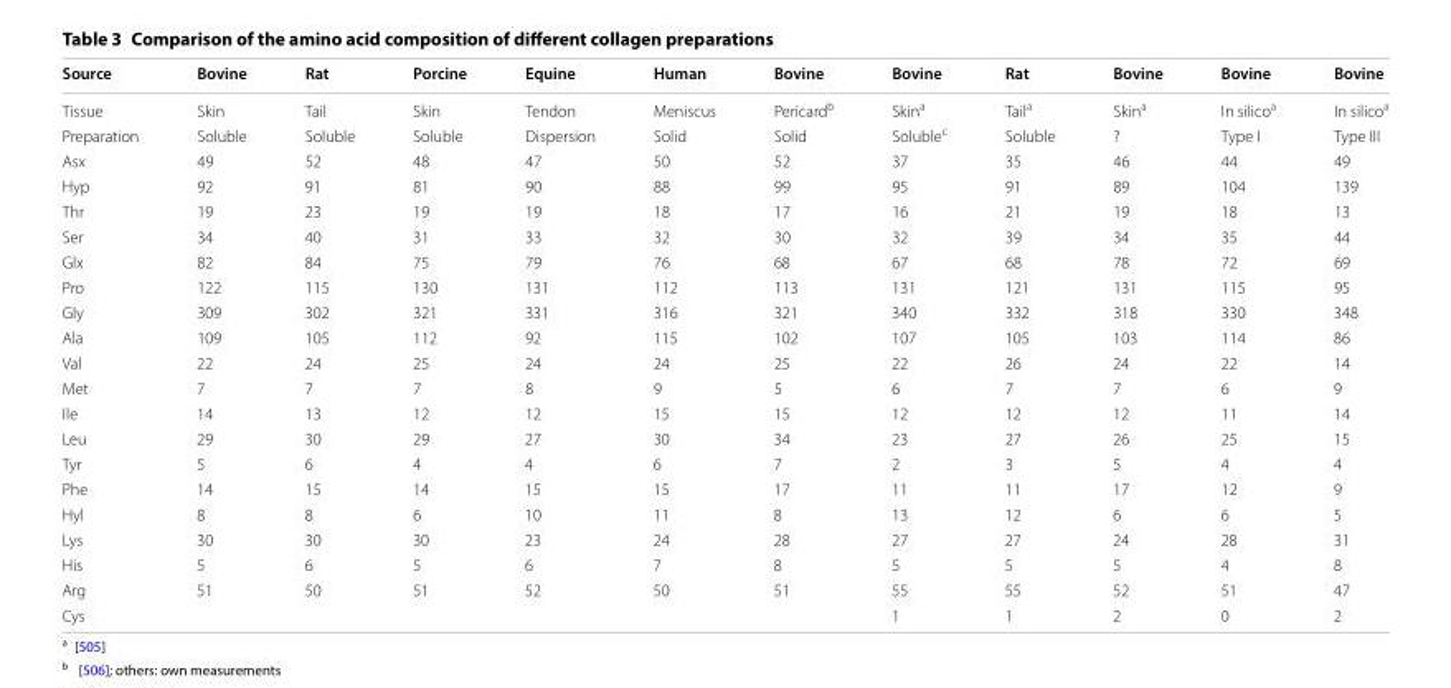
<table><thead><tr><td>Source</td><td>Bovine</td><td>Rat</td><td>Porcine</td><td>Equine</td><td>Human</td><td>Bovine</td><td>Bovine</td><td>Rat</td><td>Bovine</td><td>Bovine</td><td>Bovine</td></tr></thead><tbody><tr><td>Tissue</td><td>Skin</td><td>Tail</td><td>Skin</td><td>Tendon</td><td>Meniscus</td><td>Pericard<sup>b</sup></td><td>Skin<sup>a</sup></td><td>Tail<sup>a</sup></td><td>Skin<sup>a</sup></td><td>In silico<sup>a</sup></td><td>In silico<sup>a</sup></td></tr><tr><td>Preparation</td><td>Soluble</td><td>Soluble</td><td>Soluble</td><td>Dispersion</td><td>Solid</td><td>Solid</td><td>Soluble<sup>c</sup></td><td>Soluble</td><td>?</td><td>Type I</td><td>Type III</td></tr><tr><td>Asx</td><td>49</td><td>52</td><td>48</td><td>47</td><td>50</td><td>52</td><td>37</td><td>35</td><td>46</td><td>44</td><td>49</td></tr><tr><td>Hyp</td><td>92</td><td>91</td><td>81</td><td>90</td><td>88</td><td>99</td><td>95</td><td>91</td><td>89</td><td>104</td><td>139</td></tr><tr><td>Thr</td><td>19</td><td>23</td><td>19</td><td>19</td><td>18</td><td>17</td><td>16</td><td>21</td><td>19</td><td>18</td><td>13</td></tr><tr><td>Ser</td><td>34</td><td>40</td><td>31</td><td>33</td><td>32</td><td>30</td><td>32</td><td>39</td><td>34</td><td>35</td><td>44</td></tr><tr><td>Glx</td><td>82</td><td>84</td><td>75</td><td>79</td><td>76</td><td>68</td><td>67</td><td>68</td><td>78</td><td>72</td><td>69</td></tr><tr><td>Pro</td><td>122</td><td>115</td><td>130</td><td>131</td><td>112</td><td>113</td><td>131</td><td>121</td><td>131</td><td>115</td><td>95</td></tr><tr><td>Gly</td><td>309</td><td>302</td><td>321</td><td>331</td><td>316</td><td>321</td><td>340</td><td>332</td><td>318</td><td>330</td><td>348</td></tr><tr><td>Ala</td><td>109</td><td>105</td><td>112</td><td>92</td><td>115</td><td>102</td><td>107</td><td>105</td><td>103</td><td>114</td><td>86</td></tr><tr><td>Val</td><td>22</td><td>24</td><td>25</td><td>24</td><td>24</td><td>25</td><td>22</td><td>26</td><td>24</td><td>22</td><td>14</td></tr><tr><td>Met</td><td>7</td><td>7</td><td>7</td><td>8</td><td>9</td><td>5</td><td>6</td><td>7</td><td>7</td><td>6</td><td>9</td></tr><tr><td>Ile</td><td>14</td><td>13</td><td>12</td><td>12</td><td>15</td><td>15</td><td>12</td><td>12</td><td>12</td><td>11</td><td>14</td></tr><tr><td>Leu</td><td>29</td><td>30</td><td>29</td><td>27</td><td>30</td><td>34</td><td>23</td><td>27</td><td>26</td><td>25</td><td>15</td></tr><tr><td>Tyr</td><td>5</td><td>6</td><td>4</td><td>4</td><td>6</td><td>7</td><td>2</td><td>3</td><td>5</td><td>4</td><td>4</td></tr><tr><td>Phe</td><td>14</td><td>15</td><td>14</td><td>15</td><td>15</td><td>17</td><td>11</td><td>11</td><td>17</td><td>12</td><td>9</td></tr><tr><td>Hyl</td><td>8</td><td>8</td><td>6</td><td>10</td><td>11</td><td>8</td><td>13</td><td>12</td><td>6</td><td>6</td><td>5</td></tr><tr><td>Lys</td><td>30</td><td>30</td><td>30</td><td>23</td><td>24</td><td>28</td><td>27</td><td>27</td><td>24</td><td>28</td><td>31</td></tr><tr><td>His</td><td>5</td><td>6</td><td>5</td><td>6</td><td>7</td><td>8</td><td>5</td><td>5</td><td>5</td><td>4</td><td>8</td></tr><tr><td>Arg</td><td>51</td><td>50</td><td>51</td><td>52</td><td>50</td><td>51</td><td>55</td><td>55</td><td>52</td><td>51</td><td>47</td></tr><tr><td>Cys</td><td></td><td></td><td></td><td></td><td></td><td></td><td>1</td><td>1</td><td>2</td><td>0</td><td>2</td></tr></tbody></table>